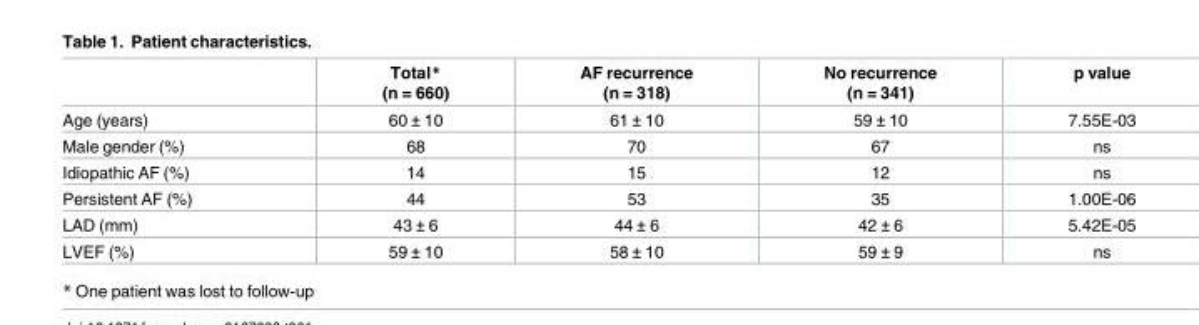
<table><thead><tr><td></td><td>Total* (n = 660)</td><td>AF recurrence (n = 318)</td><td>No recurrence (n = 341)</td><td>p value</td></tr></thead><tbody><tr><td>Age (years)</td><td>60 ± 10</td><td>61 ± 10</td><td>59 ± 10</td><td>7.55E-03</td></tr><tr><td>Male gender (%)</td><td>68</td><td>70</td><td>67</td><td>ns</td></tr><tr><td>Idiopathic AF (%)</td><td>14</td><td>15</td><td>12</td><td>ns</td></tr><tr><td>Persistent AF (%)</td><td>44</td><td>53</td><td>35</td><td>1.00E-06</td></tr><tr><td>LAD (mm)</td><td>43 ± 6</td><td>44 ± 6</td><td>42 ± 6</td><td>5.42E-05</td></tr><tr><td>LVEF (%)</td><td>59 ± 10</td><td>58 ± 10</td><td>59 ± 9</td><td>ns</td></tr></tbody></table>